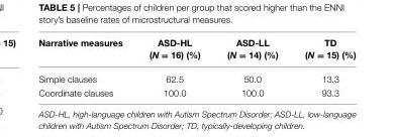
<table><thead><tr><td>Narrative measures</td><td>ASD-HL (N = 16) (%)</td><td>ASD-LL (N = 14) (%)</td><td>TD (N = 15) (%)</td></tr></thead><tbody><tr><td>Simple clauses</td><td>62.5</td><td>50.0</td><td>13.3</td></tr><tr><td>Coordinate clauses</td><td>100.0</td><td>100.0</td><td>93.3</td></tr></tbody></table>